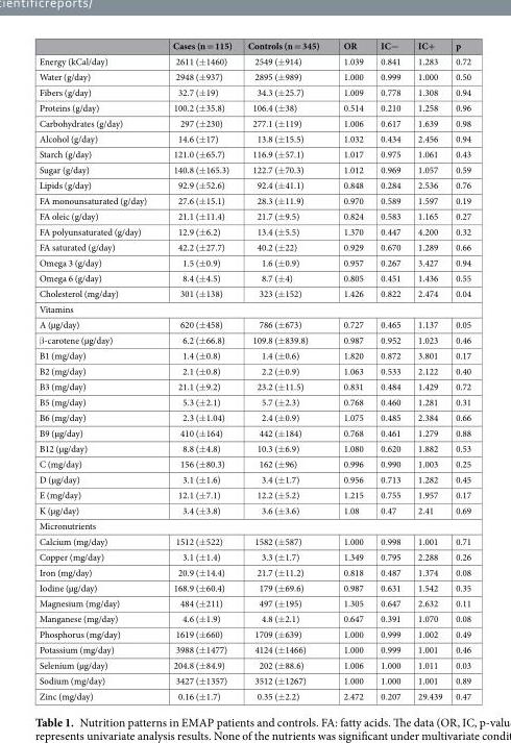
<table><thead><tr><td></td><td>Cases (n = 115)</td><td>Controls (n = 345)</td><td>OR</td><td>IC−</td><td>IC+</td><td>p</td></tr></thead><tbody><tr><td>Energy (kCal/day)</td><td>2611 (±1460)</td><td>2549 (±914)</td><td>1.039</td><td>0.841</td><td>1.283</td><td>0.72</td></tr><tr><td>Water (g/day)</td><td>2948 (±937)</td><td>2895 (±989)</td><td>1.000</td><td>0.999</td><td>1.000</td><td>0.50</td></tr><tr><td>Fibers (g/day)</td><td>32.7 (±19)</td><td>34.3 (±25.7)</td><td>1.009</td><td>0.778</td><td>1.308</td><td>0.94</td></tr><tr><td>Proteins (g/day)</td><td>100.2 (±35.8)</td><td>106.4 (±38)</td><td>0.514</td><td>0.210</td><td>1.258</td><td>0.96</td></tr><tr><td>Carbohydrates (g/day)</td><td>297 (±230)</td><td>277.1 (±119)</td><td>1.006</td><td>0.617</td><td>1.639</td><td>0.98</td></tr><tr><td>Alcohol (g/day)</td><td>14.6 (±17)</td><td>13.8 (±15.5)</td><td>1.032</td><td>0.434</td><td>2.456</td><td>0.94</td></tr><tr><td>Starch (g/day)</td><td>121.0 (±65.7)</td><td>116.9 (±57.1)</td><td>1.017</td><td>0.975</td><td>1.061</td><td>0.43</td></tr><tr><td>Sugar (g/day)</td><td>140.8 (±165.3)</td><td>122.7 (±70.3)</td><td>1.012</td><td>0.969</td><td>1.057</td><td>0.59</td></tr><tr><td>Lipids (g/day)</td><td>92.9 (±52.6)</td><td>92.4 (±41.1)</td><td>0.848</td><td>0.284</td><td>2.536</td><td>0.76</td></tr><tr><td>FA monounsaturated (g/day)</td><td>27.6 (±15.1)</td><td>28.3 (±11.9)</td><td>0.970</td><td>0.589</td><td>1.597</td><td>0.19</td></tr><tr><td>FA oleic (g/day)</td><td>21.1 (±11.4)</td><td>21.7 (±9.5)</td><td>0.824</td><td>0.583</td><td>1.165</td><td>0.27</td></tr><tr><td>FA polyunsaturated (g/day)</td><td>12.9 (±6.2)</td><td>13.4 (±5.5)</td><td>1.370</td><td>0.447</td><td>4.200</td><td>0.32</td></tr><tr><td>FA saturated (g/day)</td><td>42.2 (±27.7)</td><td>40.2 (±22)</td><td>0.929</td><td>0.670</td><td>1.289</td><td>0.66</td></tr><tr><td>Omega 3 (g/day)</td><td>1.5 (±0.9)</td><td>1.6 (±0.9)</td><td>0.957</td><td>0.267</td><td>3.427</td><td>0.94</td></tr><tr><td>Omega 6 (g/day)</td><td>8.4 (±4.5)</td><td>8.7 (±4)</td><td>0.805</td><td>0.451</td><td>1.436</td><td>0.55</td></tr><tr><td>Cholesterol (mg/day)</td><td>301 (±138)</td><td>323 (±152)</td><td>1.426</td><td>0.822</td><td>2.474</td><td>0.04</td></tr><tr><td colspan="7">Vitamins</td></tr><tr><td>A (µg/day)</td><td>620 (±458)</td><td>786 (±673)</td><td>0.727</td><td>0.465</td><td>1.137</td><td>0.05</td></tr><tr><td>β-carotene (µg/day)</td><td>6.2 (±66.8)</td><td>109.8 (±839.8)</td><td>0.987</td><td>0.952</td><td>1.023</td><td>0.46</td></tr><tr><td>B1 (mg/day)</td><td>1.4 (±0.8)</td><td>1.4 (±0.6)</td><td>1.820</td><td>0.872</td><td>3.801</td><td>0.17</td></tr><tr><td>B2 (mg/day)</td><td>2.1 (±0.8)</td><td>2.2 (±0.9)</td><td>1.063</td><td>0.533</td><td>2.122</td><td>0.40</td></tr><tr><td>B3 (mg/day)</td><td>21.1 (±9.2)</td><td>23.2 (±11.5)</td><td>0.831</td><td>0.484</td><td>1.429</td><td>0.72</td></tr><tr><td>B5 (mg/day)</td><td>5.3 (±2.1)</td><td>5.7 (±2.3)</td><td>0.768</td><td>0.460</td><td>1.281</td><td>0.31</td></tr><tr><td>B6 (mg/day)</td><td>2.3 (±1.04)</td><td>2.4 (±0.9)</td><td>1.075</td><td>0.485</td><td>2.384</td><td>0.66</td></tr><tr><td>B9 (µg/day)</td><td>410 (±164)</td><td>442 (±184)</td><td>0.768</td><td>0.461</td><td>1.279</td><td>0.88</td></tr><tr><td>B12 (µg/day)</td><td>8.8 (±4.8)</td><td>10.3 (±6.9)</td><td>1.080</td><td>0.620</td><td>1.882</td><td>0.53</td></tr><tr><td>C (mg/day)</td><td>156 (±80.3)</td><td>162 (±96)</td><td>0.996</td><td>0.990</td><td>1.003</td><td>0.25</td></tr><tr><td>D (µg/day)</td><td>3.1 (±1.6)</td><td>3.4 (±1.7)</td><td>0.956</td><td>0.713</td><td>1.282</td><td>0.45</td></tr><tr><td>E (mg/day)</td><td>12.1 (±7.1)</td><td>12.2 (±5.2)</td><td>1.215</td><td>0.755</td><td>1.957</td><td>0.17</td></tr><tr><td>K (µg/day)</td><td>3.4 (±3.8)</td><td>3.6 (±3.6)</td><td>1.08</td><td>0.47</td><td>2.41</td><td>0.69</td></tr><tr><td colspan="7">Micronutrients</td></tr><tr><td>Calcium (mg/day)</td><td>1512 (±522)</td><td>1582 (±587)</td><td>1.000</td><td>0.998</td><td>1.001</td><td>0.71</td></tr><tr><td>Copper (mg/day)</td><td>3.1 (±1.4)</td><td>3.3 (±1.7)</td><td>1.349</td><td>0.795</td><td>2.288</td><td>0.26</td></tr><tr><td>Iron (mg/day)</td><td>20.9 (±14.4)</td><td>21.7 (±11.2)</td><td>0.818</td><td>0.487</td><td>1.374</td><td>0.08</td></tr><tr><td>Iodine (µg/day)</td><td>168.9 (±60.4)</td><td>179 (±69.6)</td><td>0.987</td><td>0.631</td><td>1.542</td><td>0.35</td></tr><tr><td>Magnesium (mg/day)</td><td>484 (±211)</td><td>497 (±195)</td><td>1.305</td><td>0.647</td><td>2.632</td><td>0.11</td></tr><tr><td>Manganese (mg/day)</td><td>4.6 (±1.9)</td><td>4.8 (±2.1)</td><td>0.647</td><td>0.391</td><td>1.070</td><td>0.08</td></tr><tr><td>Phosphorus (mg/day)</td><td>1619 (±660)</td><td>1709 (±639)</td><td>1.000</td><td>0.999</td><td>1.002</td><td>0.49</td></tr><tr><td>Potassium (mg/day)</td><td>3988 (±1477)</td><td>4124 (±1466)</td><td>1.000</td><td>0.999</td><td>1.001</td><td>0.46</td></tr><tr><td>Selenium (µg/day)</td><td>204.8 (±84.9)</td><td>202 (±88.6)</td><td>1.006</td><td>1.000</td><td>1.011</td><td>0.03</td></tr><tr><td>Sodium (mg/day)</td><td>3427 (±1357)</td><td>3512 (±1267)</td><td>1.000</td><td>1.000</td><td>1.001</td><td>0.89</td></tr><tr><td>Zinc (mg/day)</td><td>0.16 (±1.7)</td><td>0.35 (±2.2)</td><td>2.472</td><td>0.207</td><td>29.439</td><td>0.47</td></tr></tbody></table>